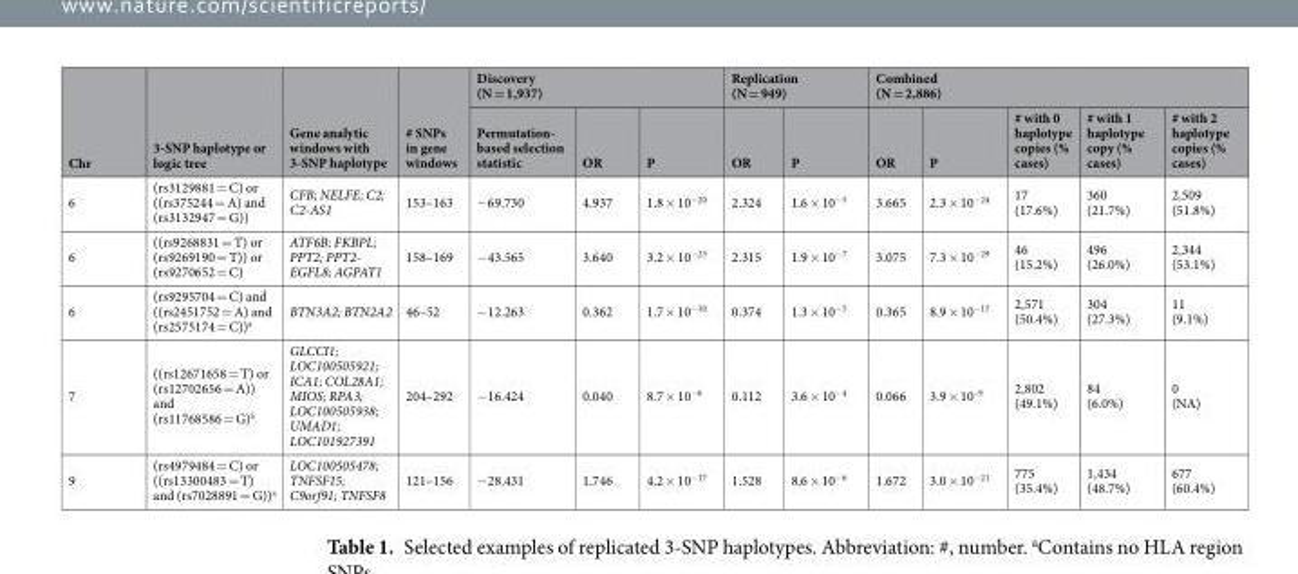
<table><thead><tr><td rowspan="2">Chr</td><td rowspan="2">3-SNP haplotype or logic tree</td><td rowspan="2">Gene analytic windows with 3-SNP haplotype</td><td rowspan="2"># SNPs in gene windows</td><td colspan="3">Discovery (N = 1,937)</td><td colspan="2">Replication (N = 949)</td><td colspan="5">Combined (N = 2,886)</td></tr><tr><td>Permutation- based selection statistic</td><td>OR</td><td>P</td><td>OR</td><td>P</td><td>OR</td><td>P</td><td># with 0 haplotype copies (% cases)</td><td># with 1 haplotype copy (% cases)</td><td># with 2 haplotype copies (% cases)</td></tr></thead><tbody><tr><td>6</td><td>(rs3129881 = C) or ((rs375244 = A) and (rs3132947 = G))</td><td>CFB; NELFE; C2; C2-AS1</td><td>153–163</td><td>−69.730</td><td>4.937</td><td>1.8 × 10<sup>−20</sup></td><td>2.324</td><td>1.6 × 10<sup>−5</sup></td><td>3.665</td><td>2.3 × 10<sup>−24</sup></td><td>17 (17.6%)</td><td>360 (21.7%)</td><td>2,509 (51.8%)</td></tr><tr><td>6</td><td>((rs9268831 = T) or (rs9269190 = T)) or (rs9270652 = C)</td><td>ATF6B; FKBPL; PPT2; PPT2- EGFL8; AGPAT1</td><td>158–169</td><td>−43.565</td><td>3.640</td><td>3.2 × 10<sup>−23</sup></td><td>2.315</td><td>1.9 × 10<sup>−7</sup></td><td>3.075</td><td>7.3 × 10<sup>−29</sup></td><td>46 (15.2%)</td><td>496 (26.0%)</td><td>2,344 (53.1%)</td></tr><tr><td>6</td><td>(rs9295704 = C) and ((rs2451752 = A) and (rs2575174 = C))<sup>a</sup></td><td>BTN3A2; BTN2A2</td><td>46–52</td><td>−12.263</td><td>0.362</td><td>1.7 × 10<sup>−10</sup></td><td>0.374</td><td>1.3 × 10<sup>−5</sup></td><td>0.365</td><td>8.9 × 10<sup>−15</sup></td><td>2,571 (50.4%)</td><td>304 (27.3%)</td><td>11 (9.1%)</td></tr><tr><td>7</td><td>((rs12671658 = T) or (rs12702656 = A)) and (rs11768586 = G)<sup>a</sup></td><td>GLCCI1; LOC100505921; ICA1; COL28A1; MIOS; RPA3; LOC100505938; UMAD1; LOC101927391</td><td>204–292</td><td>−16.424</td><td>0.040</td><td>8.7 × 10<sup>−6</sup></td><td>0.112</td><td>3.6 × 10<sup>−4</sup></td><td>0.066</td><td>3.9 × 10<sup>–9</sup></td><td>2,802 (49.1%)</td><td>84 (6.0%)</td><td>0 (NA)</td></tr><tr><td>9</td><td>(rs4979484 = C) or ((rs13300483 = T) and (rs7028891 = G))<sup>a</sup></td><td>LOC100505478; TNFSF15; C9orf91; TNFSF8</td><td>121–156</td><td>−28.431</td><td>1.746</td><td>4.2 × 10<sup>−17</sup></td><td>1.528</td><td>8.6 × 10<sup>−6</sup></td><td>1.672</td><td>3.0 × 10<sup>−21</sup></td><td>775 (35.4%)</td><td>1,434 (48.7%)</td><td>677 (60.4%)</td></tr></tbody></table>